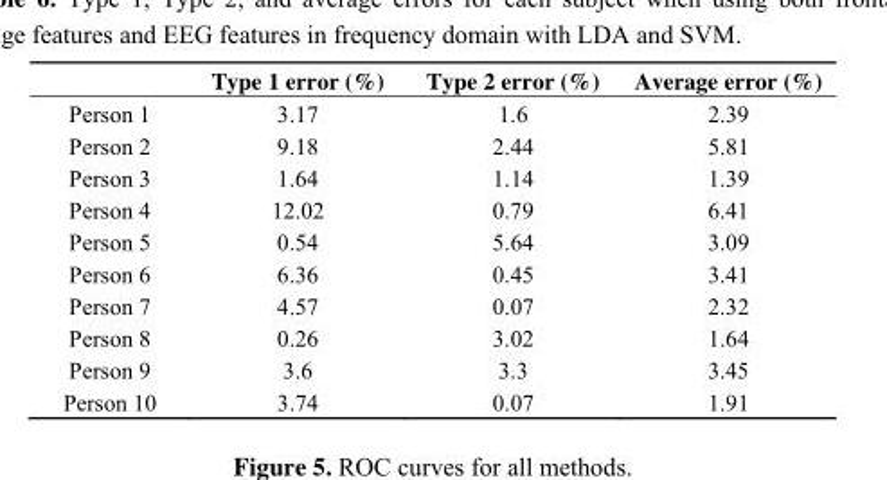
<table><thead><tr><td></td><td>Type 1 error (%)</td><td>Type 2 error (%)</td><td>Average error (%)</td></tr></thead><tbody><tr><td>Person 1</td><td>3.17</td><td>1.6</td><td>2.39</td></tr><tr><td>Person 2</td><td>9.18</td><td>2.44</td><td>5.81</td></tr><tr><td>Person 3</td><td>1.64</td><td>1.14</td><td>1.39</td></tr><tr><td>Person 4</td><td>12.02</td><td>0.79</td><td>6.41</td></tr><tr><td>Person 5</td><td>0.54</td><td>5.64</td><td>3.09</td></tr><tr><td>Person 6</td><td>6.36</td><td>0.45</td><td>3.41</td></tr><tr><td>Person 7</td><td>4.57</td><td>0.07</td><td>2.32</td></tr><tr><td>Person 8</td><td>0.26</td><td>3.02</td><td>1.64</td></tr><tr><td>Person 9</td><td>3.6</td><td>3.3</td><td>3.45</td></tr><tr><td>Person 10</td><td>3.74</td><td>0.07</td><td>1.91</td></tr></tbody></table>